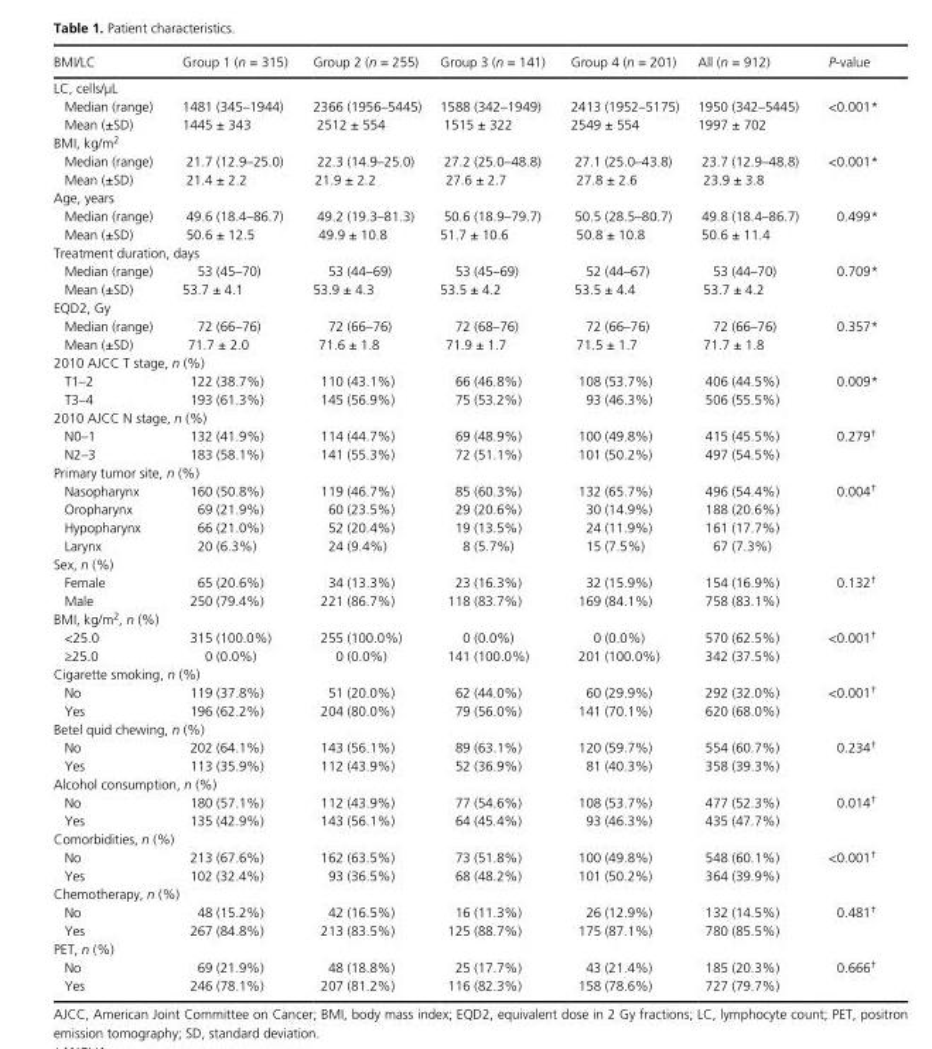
<table><thead><tr><td>BMI/LC</td><td>Group 1 (n = 315)</td><td>Group 2 (n = 255)</td><td>Group 3 (n = 141)</td><td>Group 4 (n = 201)</td><td>All (n = 912)</td><td>P- value</td></tr></thead><tbody><tr><td colspan="7">LC, cells/μL</td></tr><tr><td>Median (range)</td><td>1481 (345–1944)</td><td>2366 (1956–5445)</td><td>1588 (342–1949)</td><td>2413 (1952–5175)</td><td>1950 (342–5445)</td><td rowspan="2">&lt;0.001*</td></tr><tr><td>Mean (±SD)</td><td>1445 ± 343</td><td>2512 ± 554</td><td>1515 ± 322</td><td>2549 ± 554</td><td>1997 ± 702</td></tr><tr><td colspan="7">BMI, kg/m<sup>2</sup></td></tr><tr><td>Median (range)</td><td>21.7 (12.9–25.0)</td><td>22.3 (14.9–25.0)</td><td>27.2 (25.0–48.8)</td><td>27.1 (25.0–43.8)</td><td>23.7 (12.9–48.8)</td><td rowspan="2">&lt;0.001*</td></tr><tr><td>Mean (±SD)</td><td>21.4 ± 2.2</td><td>21.9 ± 2.2</td><td>27.6 ± 2.7</td><td>27.8 ± 2.6</td><td>23.9 ± 3.8</td></tr><tr><td colspan="7">Age, years</td></tr><tr><td>Median (range)</td><td>49.6 (18.4–86.7)</td><td>49.2 (19.3–81.3)</td><td>50.6 (18.9–79.7)</td><td>50.5 (28.5–80.7)</td><td>49.8 (18.4–86.7)</td><td rowspan="2">0.499*</td></tr><tr><td>Mean (±SD)</td><td>50.6 ± 12.5</td><td>49.9 ± 10.8</td><td>51.7 ± 10.6</td><td>50.8 ± 10.8</td><td>50.6 ± 11.4</td></tr><tr><td colspan="7">Treatment duration, days</td></tr><tr><td>Median (range)</td><td>53 (45–70)</td><td>53 (44–69)</td><td>53 (45–69)</td><td>52 (44–67)</td><td>53 (44–70)</td><td rowspan="2">0.709*</td></tr><tr><td>Mean (±SD)</td><td>53.7 ± 4.1</td><td>53.9 ± 4.3</td><td>53.5 ± 4.2</td><td>53.5 ± 4.4</td><td>53.7 ± 4.2</td></tr><tr><td colspan="7">EQD2, Gy</td></tr><tr><td>Median (range)</td><td>72 (66–76)</td><td>72 (66–76)</td><td>72 (68–76)</td><td>72 (66–76)</td><td>72 (66–76)</td><td rowspan="2">0.357*</td></tr><tr><td>Mean (±SD)</td><td>71.7 ± 2.0</td><td>71.6 ± 1.8</td><td>71.9 ± 1.7</td><td>71.5 ± 1.7</td><td>71.7 ± 1.8</td></tr><tr><td colspan="7">2010 AJCC T stage, n (%)</td></tr><tr><td>T1–2</td><td>122 (38.7%)</td><td>110 (43.1%)</td><td>66 (46.8%)</td><td>108 (53.7%)</td><td>406 (44.5%)</td><td rowspan="2">0.009*</td></tr><tr><td>T3–4</td><td>193 (61.3%)</td><td>145 (56.9%)</td><td>75 (53.2%)</td><td>93 (46.3%)</td><td>506 (55.5%)</td></tr><tr><td colspan="7">2010 AJCC N stage, n (%)</td></tr><tr><td>N0–1</td><td>132 (41.9%)</td><td>114 (44.7%)</td><td>69 (48.9%)</td><td>100 (49.8%)</td><td>415 (45.5%)</td><td rowspan="2">0.279†</td></tr><tr><td>N2–3</td><td>183 (58.1%)</td><td>141 (55.3%)</td><td>72 (51.1%)</td><td>101 (50.2%)</td><td>497 (54.5%)</td></tr><tr><td colspan="7">Primary tumor site, n (%)</td></tr><tr><td>Nasopharynx</td><td>160 (50.8%)</td><td>119 (46.7%)</td><td>85 (60.3%)</td><td>132 (65.7%)</td><td>496 (54.4%)</td><td rowspan="4">0.004†</td></tr><tr><td>Oropharynx</td><td>69 (21.9%)</td><td>60 (23.5%)</td><td>29 (20.6%)</td><td>30 (14.9%)</td><td>188 (20.6%)</td></tr><tr><td>Hypopharynx</td><td>66 (21.0%)</td><td>52 (20.4%)</td><td>19 (13.5%)</td><td>24 (11.9%)</td><td>161 (17.7%)</td></tr><tr><td>Larynx</td><td>20 (6.3%)</td><td>24 (9.4%)</td><td>8 (5.7%)</td><td>15 (7.5%)</td><td>67 (7.3%)</td></tr><tr><td colspan="7">Sex, n (%)</td></tr><tr><td>Female</td><td>65 (20.6%)</td><td>34 (13.3%)</td><td>23 (16.3%)</td><td>32 (15.9%)</td><td>154 (16.9%)</td><td rowspan="2">0.132†</td></tr><tr><td>Male</td><td>250 (79.4%)</td><td>221 (86.7%)</td><td>118 (83.7%)</td><td>169 (84.1%)</td><td>758 (83.1%)</td></tr><tr><td colspan="7">BMI, kg/m<sup>2</sup>, n (%)</td></tr><tr><td>&lt;25.0</td><td>315 (100.0%)</td><td>255 (100.0%)</td><td>0 (0.0%)</td><td>0 (0.0%)</td><td>570 (62.5%)</td><td rowspan="2">&lt;0.001†</td></tr><tr><td>≥25.0</td><td>0 (0.0%)</td><td>0 (0.0%)</td><td>141 (100.0%)</td><td>201 (100.0%)</td><td>342 (37.5%)</td></tr><tr><td colspan="7">Cigarette smoking, n (%)</td></tr><tr><td>No</td><td>119 (37.8%)</td><td>51 (20.0%)</td><td>62 (44.0%)</td><td>60 (29.9%)</td><td>292 (32.0%)</td><td rowspan="2">&lt;0.001†</td></tr><tr><td>Yes</td><td>196 (62.2%)</td><td>204 (80.0%)</td><td>79 (56.0%)</td><td>141 (70.1%)</td><td>620 (68.0%)</td></tr><tr><td colspan="7">Betel quid chewing, n (%)</td></tr><tr><td>No</td><td>202 (64.1%)</td><td>143 (56.1%)</td><td>89 (63.1%)</td><td>120 (59.7%)</td><td>554 (60.7%)</td><td rowspan="2">0.234†</td></tr><tr><td>Yes</td><td>113 (35.9%)</td><td>112 (43.9%)</td><td>52 (36.9%)</td><td>81 (40.3%)</td><td>358 (39.3%)</td></tr><tr><td colspan="7">Alcohol consumption, n (%)</td></tr><tr><td>No</td><td>180 (57.1%)</td><td>112 (43.9%)</td><td>77 (54.6%)</td><td>108 (53.7%)</td><td>477 (52.3%)</td><td rowspan="2">0.014†</td></tr><tr><td>Yes</td><td>135 (42.9%)</td><td>143 (56.1%)</td><td>64 (45.4%)</td><td>93 (46.3%)</td><td>435 (47.7%)</td></tr><tr><td colspan="7">Comorbidities, n (%)</td></tr><tr><td>No</td><td>213 (67.6%)</td><td>162 (63.5%)</td><td>73 (51.8%)</td><td>100 (49.8%)</td><td>548 (60.1%)</td><td rowspan="2">&lt;0.001†</td></tr><tr><td>Yes</td><td>102 (32.4%)</td><td>93 (36.5%)</td><td>68 (48.2%)</td><td>101 (50.2%)</td><td>364 (39.9%)</td></tr><tr><td colspan="7">Chemotherapy, n (%)</td></tr><tr><td>No</td><td>48 (15.2%)</td><td>42 (16.5%)</td><td>16 (11.3%)</td><td>26 (12.9%)</td><td>132 (14.5%)</td><td rowspan="2">0.481†</td></tr><tr><td>Yes</td><td>267 (84.8%)</td><td>213 (83.5%)</td><td>125 (88.7%)</td><td>175 (87.1%)</td><td>780 (85.5%)</td></tr><tr><td colspan="7">PET, n (%)</td></tr><tr><td>No</td><td>69 (21.9%)</td><td>48 (18.8%)</td><td>25 (17.7%)</td><td>43 (21.4%)</td><td>185 (20.3%)</td><td rowspan="2">0.666†</td></tr><tr><td>Yes</td><td>246 (78.1%)</td><td>207 (81.2%)</td><td>116 (82.3%)</td><td>158 (78.6%)</td><td>727 (79.7%)</td></tr></tbody></table>